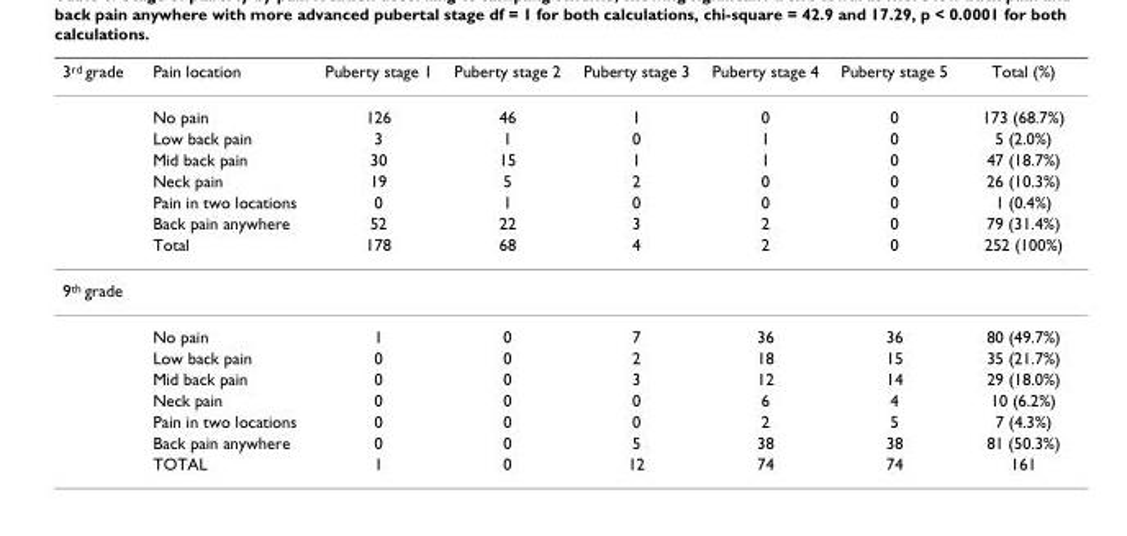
<table><thead><tr><td>3<sup>rd</sup> grade</td><td>Pain location</td><td>Puberty stage 1</td><td>Puberty stage 2</td><td>Puberty stage 3</td><td>Puberty stage 4</td><td>Puberty stage 5</td><td>Total (%)</td></tr></thead><tbody><tr><td></td><td>No pain</td><td>126</td><td>46</td><td>1</td><td>0</td><td>0</td><td>173 (68.7%)</td></tr><tr><td></td><td>Low back pain</td><td>3</td><td>1</td><td>0</td><td>1</td><td>0</td><td>5 (2.0%)</td></tr><tr><td></td><td>Mid back pain</td><td>30</td><td>15</td><td>1</td><td>1</td><td>0</td><td>47 (18.7%)</td></tr><tr><td></td><td>Neck pain</td><td>19</td><td>5</td><td>2</td><td>0</td><td>0</td><td>26 (10.3%)</td></tr><tr><td></td><td>Pain in two locations</td><td>0</td><td>1</td><td>0</td><td>0</td><td>0</td><td>1 (0.4%)</td></tr><tr><td></td><td>Back pain anywhere</td><td>52</td><td>22</td><td>3</td><td>2</td><td>0</td><td>79 (31.4%)</td></tr><tr><td></td><td>Total</td><td>178</td><td>68</td><td>4</td><td>2</td><td>0</td><td>252 (100%)</td></tr><tr><td colspan="8">9<sup>th</sup> grade</td></tr><tr><td></td><td>No pain</td><td>1</td><td>0</td><td>7</td><td>36</td><td>36</td><td>80 (49.7%)</td></tr><tr><td></td><td>Low back pain</td><td>0</td><td>0</td><td>2</td><td>18</td><td>15</td><td>35 (21.7%)</td></tr><tr><td></td><td>Mid back pain</td><td>0</td><td>0</td><td>3</td><td>12</td><td>14</td><td>29 (18.0%)</td></tr><tr><td></td><td>Neck pain</td><td>0</td><td>0</td><td>0</td><td>6</td><td>4</td><td>10 (6.2%)</td></tr><tr><td></td><td>Pain in two locations</td><td>0</td><td>0</td><td>0</td><td>2</td><td>5</td><td>7 (4.3%)</td></tr><tr><td></td><td>Back pain anywhere</td><td>0</td><td>0</td><td>5</td><td>38</td><td>38</td><td>81 (50.3%)</td></tr><tr><td></td><td>TOTAL</td><td>1</td><td>0</td><td>12</td><td>74</td><td>74</td><td>161</td></tr></tbody></table>